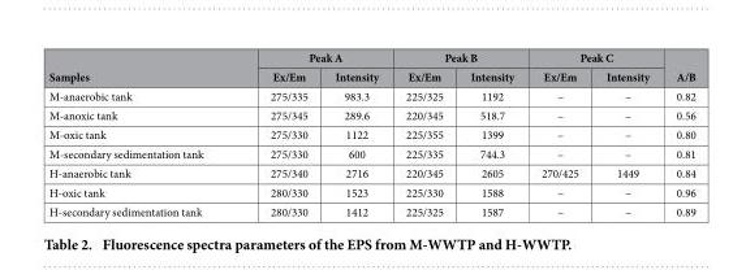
<table><thead><tr><td rowspan="2">Samples</td><td colspan="2">Peak A</td><td colspan="2">Peak B</td><td colspan="2">Peak C</td><td rowspan="2">A/B</td></tr><tr><td>Ex/Em</td><td>Intensity</td><td>Ex/Em</td><td>Intensity</td><td>Ex/Em</td><td>Intensity</td></tr></thead><tbody><tr><td>M-anaerobic tank</td><td>275/335</td><td>983.3</td><td>225/325</td><td>1192</td><td>–</td><td>–</td><td>0.82</td></tr><tr><td>M-anoxic tank</td><td>275/345</td><td>289.6</td><td>220/345</td><td>518.7</td><td>–</td><td>–</td><td>0.56</td></tr><tr><td>M-oxic tank</td><td>275/330</td><td>1122</td><td>225/355</td><td>1399</td><td>–</td><td>–</td><td>0.80</td></tr><tr><td>M-secondary sedimentation tank</td><td>275/330</td><td>600</td><td>225/335</td><td>744.3</td><td>–</td><td>–</td><td>0.81</td></tr><tr><td>H-anaerobic tank</td><td>275/340</td><td>2716</td><td>220/345</td><td>2605</td><td>270/425</td><td>1449</td><td>0.84</td></tr><tr><td>H-oxic tank</td><td>280/330</td><td>1523</td><td>225/330</td><td>1588</td><td>–</td><td>–</td><td>0.96</td></tr><tr><td>H-secondary sedimentation tank</td><td>280/330</td><td>1412</td><td>225/325</td><td>1587</td><td>–</td><td>–</td><td>0.89</td></tr></tbody></table>